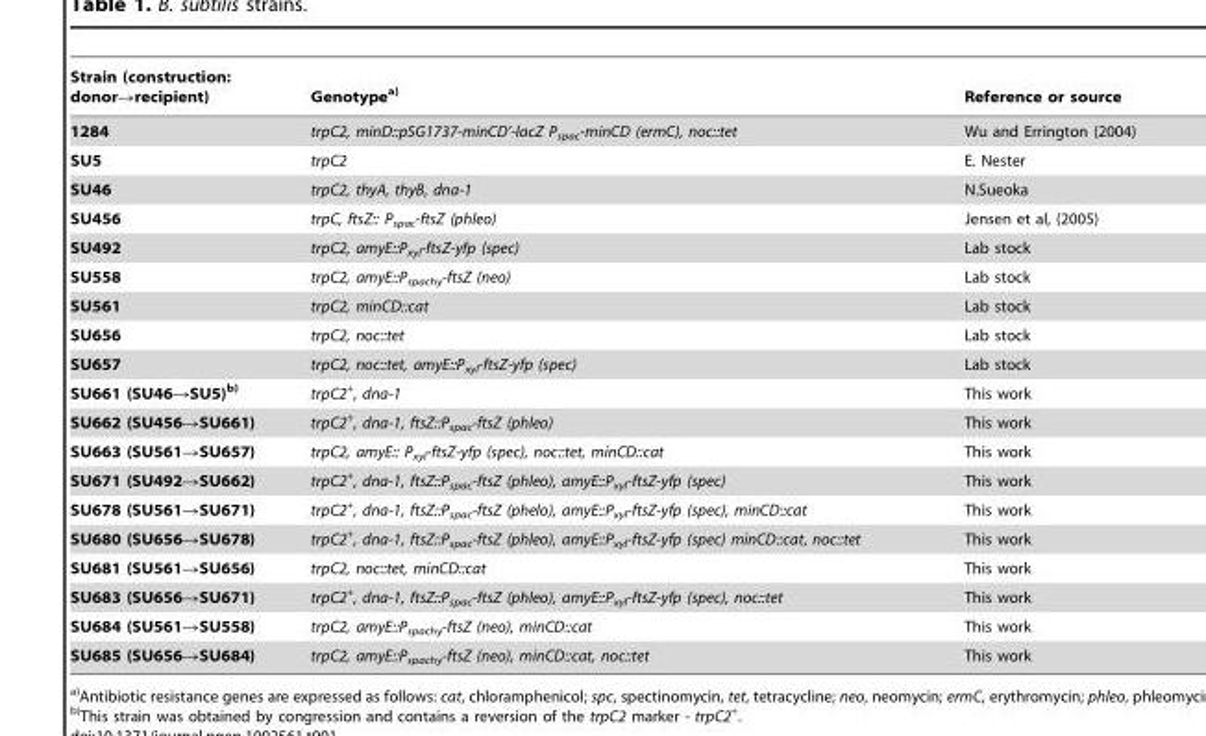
<table><thead><tr><td>Strain (construction: donor→recipient)</td><td>Genotypea)</td><td>Reference or source</td></tr></thead><tbody><tr><td>1284</td><td>trpC2, minD::pSG1737-minCD’-lacZ P<sub>spac</sub>-minCD (ermC), noc::tet</td><td>Wu and Errington (2004)</td></tr><tr><td>SU5</td><td>trpC2</td><td>E. Nester</td></tr><tr><td>SU46</td><td>trpC2, thyA, thyB, dna-1</td><td>N.Sueoka</td></tr><tr><td>SU456</td><td>trpC, ftsZ:: P<sub>spac</sub>-ftsZ (phleo)</td><td>Jensen et al, (2005)</td></tr><tr><td>SU492</td><td>trpC2, amyE::P<sub>xyl</sub>-ftsZ-yfp (spec)</td><td>Lab stock</td></tr><tr><td>SU558</td><td>trpC2, amyE::P<sub>spachy</sub>-ftsZ (neo)</td><td>Lab stock</td></tr><tr><td>SU561</td><td>trpC2, minCD::cat</td><td>Lab stock</td></tr><tr><td>SU656</td><td>trpC2, noc::tet</td><td>Lab stock</td></tr><tr><td>SU657</td><td>trpC2, noc::tet, amyE::P<sub>xyl</sub>-ftsZ-yfp (spec)</td><td>Lab stock</td></tr><tr><td>SU661 (SU46→SU5)b)</td><td>trpC2<sup>+</sup>, dna-1</td><td>This work</td></tr><tr><td>SU662 (SU456→SU661)</td><td>trpC2<sup>+</sup>, dna-1, ftsZ::P<sub>spac</sub>-ftsZ (phleo)</td><td>This work</td></tr><tr><td>SU663 (SU561→SU657)</td><td>trpC2, amyE:: P<sub>xyl</sub>-ftsZ-yfp (spec), noc::tet, minCD::cat</td><td>This work</td></tr><tr><td>SU671 (SU492→SU662)</td><td>trpC2<sup>+</sup>, dna-1, ftsZ::P<sub>spac</sub>-ftsZ (phleo), amyE::P<sub>xyl</sub>-ftsZ-yfp (spec)</td><td>This work</td></tr><tr><td>SU678 (SU561→SU671)</td><td>trpC2<sup>+</sup>, dna-1, ftsZ::P<sub>spac</sub>-ftsZ (phelo), amyE::P<sub>xyl</sub>-ftsZ-yfp (spec), minCD::cat</td><td>This work</td></tr><tr><td>SU680 (SU656→SU678)</td><td>trpC2<sup>+</sup>, dna-1, ftsZ::P<sub>spac</sub>-ftsZ (phleo), amyE::P<sub>xyl</sub>-ftsZ-yfp (spec) minCD::cat, noc::tet</td><td>This work</td></tr><tr><td>SU681 (SU561→SU656)</td><td>trpC2, noc::tet, minCD::cat</td><td>This work</td></tr><tr><td>SU683 (SU656→SU671)</td><td>trpC2<sup>+</sup>, dna-1, ftsZ::P<sub>spac</sub>-ftsZ (phleo), amyE::P<sub>xyl</sub>-ftsZ-yfp (spec), noc::tet</td><td>This work</td></tr><tr><td>SU684 (SU561→SU558)</td><td>trpC2, amyE::P<sub>spachy</sub>-ftsZ (neo), minCD::cat</td><td>This work</td></tr><tr><td>SU685 (SU656→SU684)</td><td>trpC2, amyE::P<sub>spachy</sub>-ftsZ (neo), minCD::cat, noc::tet</td><td>This work</td></tr></tbody></table>